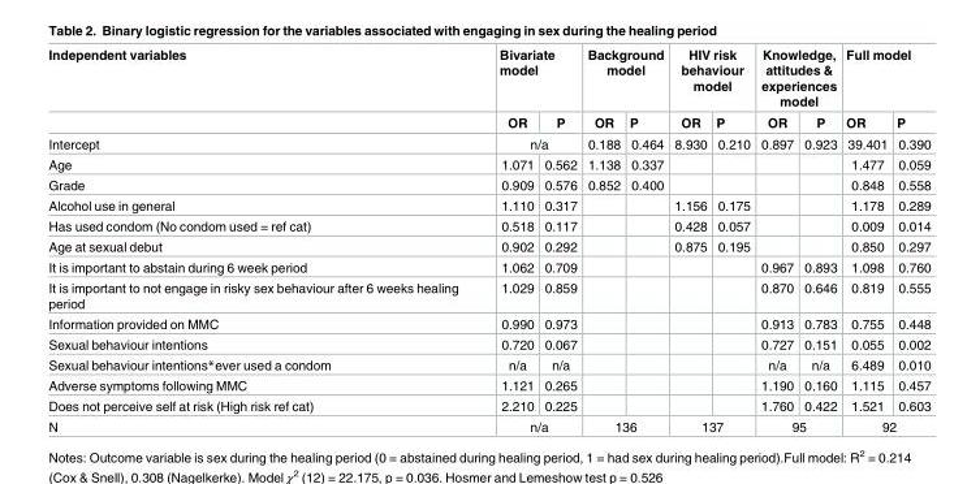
<table><thead><tr><td rowspan="2">Independent variables</td><td colspan="2">Bivariate model</td><td colspan="2">Background model</td><td colspan="2">HIV risk behaviour model</td><td colspan="2">Knowledge, attitudes &amp; experiences model</td><td colspan="2">Full model</td></tr><tr><td>OR</td><td>P</td><td>OR</td><td>P</td><td>OR</td><td>P</td><td>OR</td><td>P</td><td>OR</td><td>P</td></tr></thead><tbody><tr><td>Intercept</td><td colspan="2">n/a</td><td>0.188</td><td>0.464</td><td>8.930</td><td>0.210</td><td>0.897</td><td>0.923</td><td>39.401</td><td>0.390</td></tr><tr><td>Age</td><td>1.071</td><td>0.562</td><td>1.138</td><td>0.337</td><td></td><td></td><td></td><td></td><td>1.477</td><td>0.059</td></tr><tr><td>Grade</td><td>0.909</td><td>0.576</td><td>0.852</td><td>0.400</td><td></td><td></td><td></td><td></td><td>0.848</td><td>0.558</td></tr><tr><td>Alcohol use in general</td><td>1.110</td><td>0.317</td><td></td><td></td><td>1.156</td><td>0.175</td><td></td><td></td><td>1.178</td><td>0.289</td></tr><tr><td>Has used condom (No condom used = ref cat)</td><td>0.518</td><td>0.117</td><td></td><td></td><td>0.428</td><td>0.057</td><td></td><td></td><td>0.009</td><td>0.014</td></tr><tr><td>Age at sexual debut</td><td>0.902</td><td>0.292</td><td></td><td></td><td>0.875</td><td>0.195</td><td></td><td></td><td>0.850</td><td>0.297</td></tr><tr><td>It is important to abstain during 6 week period</td><td>1.062</td><td>0.709</td><td></td><td></td><td></td><td></td><td>0.967</td><td>0.893</td><td>1.098</td><td>0.760</td></tr><tr><td>It is important to not engage in risky sex behaviour after 6 weeks healing period</td><td>1.029</td><td>0.859</td><td></td><td></td><td></td><td></td><td>0.870</td><td>0.646</td><td>0.819</td><td>0.555</td></tr><tr><td>Information provided on MMC</td><td>0.990</td><td>0.973</td><td></td><td></td><td></td><td></td><td>0.913</td><td>0.783</td><td>0.755</td><td>0.448</td></tr><tr><td>Sexual behaviour intentions</td><td>0.720</td><td>0.067</td><td></td><td></td><td></td><td></td><td>0.727</td><td>0.151</td><td>0.055</td><td>0.002</td></tr><tr><td>Sexual behaviour intentions*ever used a condom</td><td>n/a</td><td>n/a</td><td></td><td></td><td></td><td></td><td>n/a</td><td>n/a</td><td>6.489</td><td>0.010</td></tr><tr><td>Adverse symptoms following MMC</td><td>1.121</td><td>0.265</td><td></td><td></td><td></td><td></td><td>1.190</td><td>0.160</td><td>1.115</td><td>0.457</td></tr><tr><td>Does not perceive self at risk (High risk ref cat)</td><td>2.210</td><td>0.225</td><td></td><td></td><td></td><td></td><td>1.760</td><td>0.422</td><td>1.521</td><td>0.603</td></tr><tr><td>N</td><td colspan="2">n/a</td><td colspan="2">136</td><td colspan="2">137</td><td colspan="2">95</td><td colspan="2">92</td></tr></tbody></table>